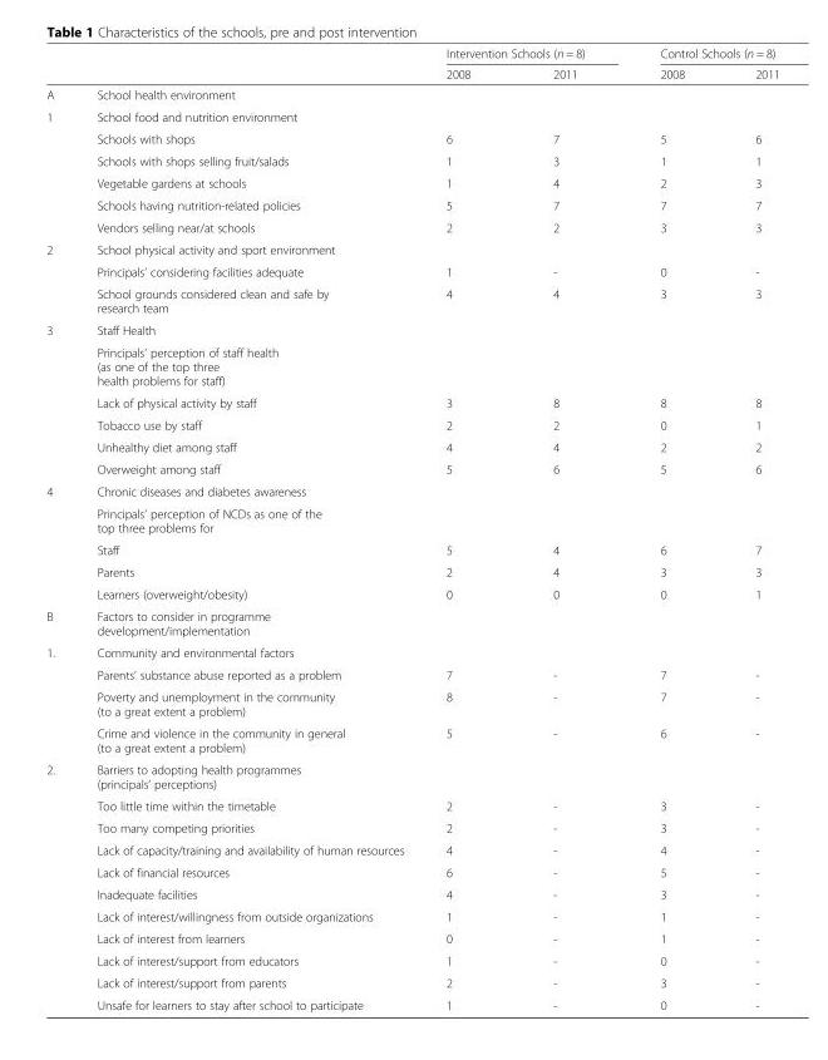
<table><thead><tr><td rowspan="2"></td><td rowspan="2"></td><td colspan="2">Intervention Schools (n = 8)</td><td colspan="2">Control Schools (n = 8)</td></tr><tr><td>2008</td><td>2011</td><td>2008</td><td>2011</td></tr></thead><tbody><tr><td>A</td><td>School health environment</td><td></td><td></td><td></td><td></td></tr><tr><td rowspan="6">1</td><td>School food and nutrition environment</td><td></td><td></td><td></td><td></td></tr><tr><td>Schools with shops</td><td>6</td><td>7</td><td>5</td><td>6</td></tr><tr><td>Schools with shops selling fruit/salads</td><td>1</td><td>3</td><td>1</td><td>1</td></tr><tr><td>Vegetable gardens at schools</td><td>1</td><td>4</td><td>2</td><td>3</td></tr><tr><td>Schools having nutrition-related policies</td><td>5</td><td>7</td><td>7</td><td>7</td></tr><tr><td>Vendors selling near/at schools</td><td>2</td><td>2</td><td>3</td><td>3</td></tr><tr><td rowspan="3">2</td><td>School physical activity and sport environment</td><td></td><td></td><td></td><td></td></tr><tr><td>Principals’ considering facilities adequate</td><td>1</td><td>-</td><td>0</td><td>-</td></tr><tr><td>School grounds considered clean and safe by research team</td><td>4</td><td>4</td><td>3</td><td>3</td></tr><tr><td rowspan="6">3</td><td>Staff Health</td><td></td><td></td><td></td><td></td></tr><tr><td>Principals’ perception of staff health (as one of the top three health problems for staff)</td><td></td><td></td><td></td><td></td></tr><tr><td>Lack of physical activity by staff</td><td>3</td><td>8</td><td>8</td><td>8</td></tr><tr><td>Tobacco use by staff</td><td>2</td><td>2</td><td>0</td><td>1</td></tr><tr><td>Unhealthy diet among staff</td><td>4</td><td>4</td><td>2</td><td>2</td></tr><tr><td>Overweight among staff</td><td>5</td><td>6</td><td>5</td><td>6</td></tr><tr><td rowspan="5">4</td><td>Chronic diseases and diabetes awareness</td><td></td><td></td><td></td><td></td></tr><tr><td>Principals’ perception of NCDs as one of the top three problems for</td><td></td><td></td><td></td><td></td></tr><tr><td>Staff</td><td>5</td><td>4</td><td>6</td><td>7</td></tr><tr><td>Parents</td><td>2</td><td>4</td><td>3</td><td>3</td></tr><tr><td>Learners (overweight/obesity)</td><td>0</td><td>0</td><td>0</td><td>1</td></tr><tr><td>B</td><td>Factors to consider in programme development/implementation</td><td></td><td></td><td></td><td></td></tr><tr><td rowspan="4">1.</td><td>Community and environmental factors</td><td></td><td></td><td></td><td></td></tr><tr><td>Parents’ substance abuse reported as a problem</td><td>7</td><td>-</td><td>7</td><td>-</td></tr><tr><td>Poverty and unemployment in the community (to a great extent a problem)</td><td>8</td><td>-</td><td>7</td><td>-</td></tr><tr><td>Crime and violence in the community in general (to a great extent a problem)</td><td>5</td><td>-</td><td>6</td><td>-</td></tr><tr><td rowspan="11">2.</td><td>Barriers to adopting health programmes (principals’ perceptions)</td><td></td><td></td><td></td><td></td></tr><tr><td>Too little time within the timetable</td><td>2</td><td>-</td><td>3</td><td>-</td></tr><tr><td>Too many competing priorities</td><td>2</td><td>-</td><td>3</td><td>-</td></tr><tr><td>Lack of capacity/training and availability of human resources</td><td>4</td><td>-</td><td>4</td><td>-</td></tr><tr><td>Lack of financial resources</td><td>6</td><td>-</td><td>5</td><td>-</td></tr><tr><td>Inadequate facilities</td><td>4</td><td>-</td><td>3</td><td>-</td></tr><tr><td>Lack of interest/willingness from outside organizations</td><td>1</td><td>-</td><td>1</td><td>-</td></tr><tr><td>Lack of interest from learners</td><td>0</td><td>-</td><td>1</td><td>-</td></tr><tr><td>Lack of interest/support from educators</td><td>1</td><td>-</td><td>0</td><td>-</td></tr><tr><td>Lack of interest/support from parents</td><td>2</td><td>-</td><td>3</td><td>-</td></tr><tr><td>Unsafe for learners to stay after school to participate</td><td>1</td><td>-</td><td>0</td><td>-</td></tr></tbody></table>